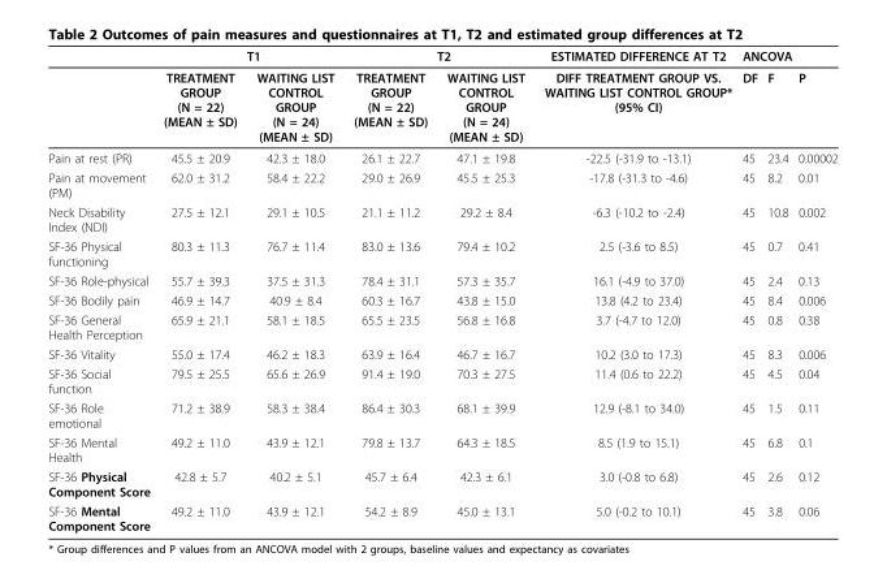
<table><thead><tr><td rowspan="2"></td><td colspan="2">T1</td><td colspan="2">T2</td><td rowspan="2">ESTIMATED DIFFERENCE AT T2 DIFF TREATMENT GROUP VS. WAITING LIST CONTROL GROUP* (95% CI)</td><td colspan="3">ANCOVA</td></tr><tr><td>TREATMENT GROUP (N = 22) (MEAN ± SD)</td><td>WAITING LIST CONTROL GROUP (N = 24) (MEAN ± SD)</td><td>TREATMENT GROUP (N = 22) (MEAN ± SD)</td><td>WAITING LIST CONTROL GROUP (N = 24) (MEAN ± SD)</td><td>DF</td><td>F</td><td>P</td></tr></thead><tbody><tr><td>Pain at rest (PR)</td><td>45.5 ± 20.9</td><td>42.3 ± 18.0</td><td>26.1 ± 22.7</td><td>47.1 ± 19.8</td><td>-22.5 (-31.9 to -13.1)</td><td>45</td><td>23.4</td><td>0.00002</td></tr><tr><td>Pain at movement (PM)</td><td>62.0 ± 31.2</td><td>58.4 ± 22.2</td><td>29.0 ± 26.9</td><td>45.5 ± 25.3</td><td>-17.8 (-31.3 to -4.6)</td><td>45</td><td>8.2</td><td>0.01</td></tr><tr><td>Neck Disability Index (NDI)</td><td>27.5 ± 12.1</td><td>29.1 ± 10.5</td><td>21.1 ± 11.2</td><td>29.2 ± 8.4</td><td>-6.3 (-10.2 to -2.4)</td><td>45</td><td>10.8</td><td>0.002</td></tr><tr><td>SF-36 Physical functioning</td><td>80.3 ± 11.3</td><td>76.7 ± 11.4</td><td>83.0 ± 13.6</td><td>79.4 ± 10.2</td><td>2.5 (-3.6 to 8.5)</td><td>45</td><td>0.7</td><td>0.41</td></tr><tr><td>SF-36 Role-physical</td><td>55.7 ± 39.3</td><td>37.5 ± 31.3</td><td>78.4 ± 31.1</td><td>57.3 ± 35.7</td><td>16.1 (-4.9 to 37.0)</td><td>45</td><td>2.4</td><td>0.13</td></tr><tr><td>SF-36 Bodily pain</td><td>46.9 ± 14.7</td><td>40.9 ± 8.4</td><td>60.3 ± 16.7</td><td>43.8 ± 15.0</td><td>13.8 (4.2 to 23.4)</td><td>45</td><td>8.4</td><td>0.006</td></tr><tr><td>SF-36 General Health Perception</td><td>65.9 ± 21.1</td><td>58.1 ± 18.5</td><td>65.5 ± 23.5</td><td>56.8 ± 16.8</td><td>3.7 (-4.7 to 12.0)</td><td>45</td><td>0.8</td><td>0.38</td></tr><tr><td>SF-36 Vitality</td><td>55.0 ± 17.4</td><td>46.2 ± 18.3</td><td>63.9 ± 16.4</td><td>46.7 ± 16.7</td><td>10.2 (3.0 to 17.3)</td><td>45</td><td>8.3</td><td>0.006</td></tr><tr><td>SF-36 Social function</td><td>79.5 ± 25.5</td><td>65.6 ± 26.9</td><td>91.4 ± 19.0</td><td>70.3 ± 27.5</td><td>11.4 (0.6 to 22.2)</td><td>45</td><td>4.5</td><td>0.04</td></tr><tr><td>SF-36 Role emotional</td><td>71.2 ± 38.9</td><td>58.3 ± 38.4</td><td>86.4 ± 30.3</td><td>68.1 ± 39.9</td><td>12.9 (-8.1 to 34.0)</td><td>45</td><td>1.5</td><td>0.11</td></tr><tr><td>SF-36 Mental Health</td><td>49.2 ± 11.0</td><td>43.9 ± 12.1</td><td>79.8 ± 13.7</td><td>64.3 ± 18.5</td><td>8.5 (1.9 to 15.1)</td><td>45</td><td>6.8</td><td>0.1</td></tr><tr><td>SF-36 Physical Component Score</td><td>42.8 ± 5.7</td><td>40.2 ± 5.1</td><td>45.7 ± 6.4</td><td>42.3 ± 6.1</td><td>3.0 (-0.8 to 6.8)</td><td>45</td><td>2.6</td><td>0.12</td></tr><tr><td>SF-36 Mental Component Score</td><td>49.2 ± 11.0</td><td>43.9 ± 12.1</td><td>54.2 ± 8.9</td><td>45.0 ± 13.1</td><td>5.0 (-0.2 to 10.1)</td><td>45</td><td>3.8</td><td>0.06</td></tr></tbody></table>